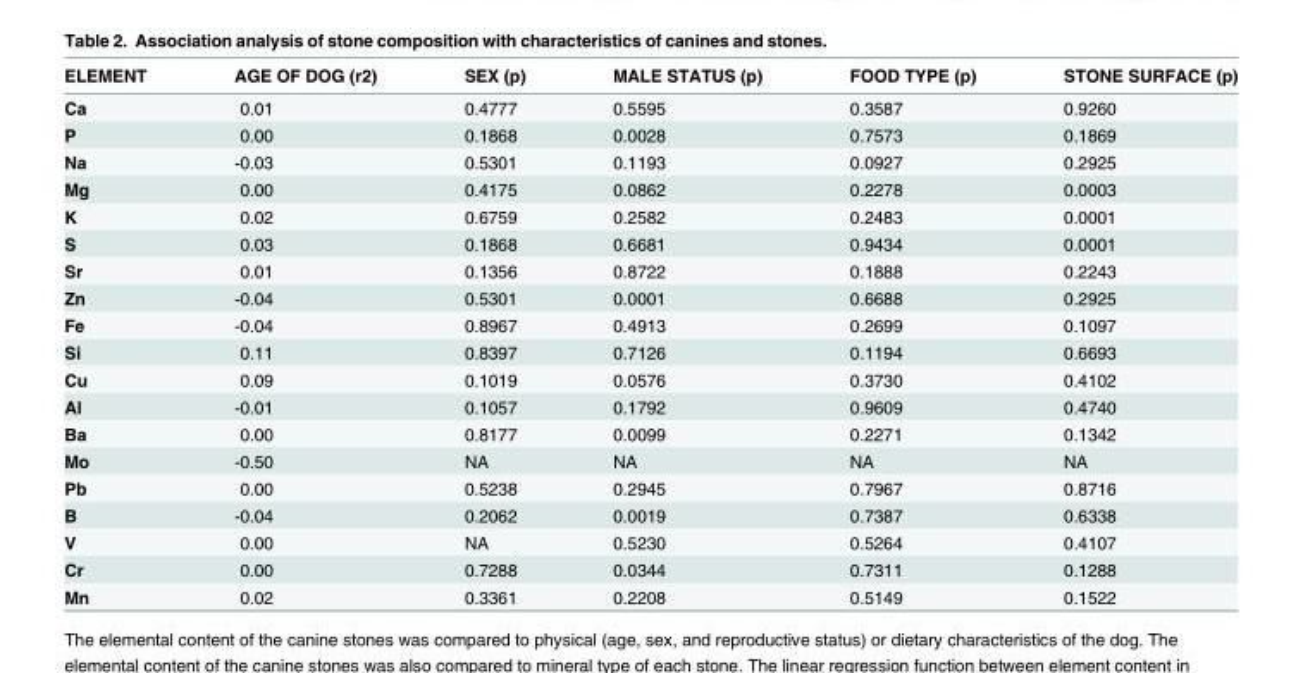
<table><thead><tr><td>ELEMENT</td><td>AGE OF DOG (r2)</td><td>SEX (p)</td><td>MALE STATUS (p)</td><td>FOOD TYPE (p)</td><td>STONE SURFACE (p)</td></tr></thead><tbody><tr><td>Ca</td><td>0.01</td><td>0.4777</td><td>0.5595</td><td>0.3587</td><td>0.9260</td></tr><tr><td>P</td><td>0.00</td><td>0.1868</td><td>0.0028</td><td>0.7573</td><td>0.1869</td></tr><tr><td>Na</td><td>-0.03</td><td>0.5301</td><td>0.1193</td><td>0.0927</td><td>0.2925</td></tr><tr><td>Mg</td><td>0.00</td><td>0.4175</td><td>0.0862</td><td>0.2278</td><td>0.0003</td></tr><tr><td>K</td><td>0.02</td><td>0.6759</td><td>0.2582</td><td>0.2483</td><td>0.0001</td></tr><tr><td>S</td><td>0.03</td><td>0.1868</td><td>0.6681</td><td>0.9434</td><td>0.0001</td></tr><tr><td>Sr</td><td>0.01</td><td>0.1356</td><td>0.8722</td><td>0.1888</td><td>0.2243</td></tr><tr><td>Zn</td><td>-0.04</td><td>0.5301</td><td>0.0001</td><td>0.6688</td><td>0.2925</td></tr><tr><td>Fe</td><td>-0.04</td><td>0.8967</td><td>0.4913</td><td>0.2699</td><td>0.1097</td></tr><tr><td>Si</td><td>0.11</td><td>0.8397</td><td>0.7126</td><td>0.1194</td><td>0.6693</td></tr><tr><td>Cu</td><td>0.09</td><td>0.1019</td><td>0.0576</td><td>0.3730</td><td>0.4102</td></tr><tr><td>Al</td><td>-0.01</td><td>0.1057</td><td>0.1792</td><td>0.9609</td><td>0.4740</td></tr><tr><td>Ba</td><td>0.00</td><td>0.8177</td><td>0.0099</td><td>0.2271</td><td>0.1342</td></tr><tr><td>Mo</td><td>-0.50</td><td>NA</td><td>NA</td><td>NA</td><td>NA</td></tr><tr><td>Pb</td><td>0.00</td><td>0.5238</td><td>0.2945</td><td>0.7967</td><td>0.8716</td></tr><tr><td>B</td><td>-0.04</td><td>0.2062</td><td>0.0019</td><td>0.7387</td><td>0.6338</td></tr><tr><td>V</td><td>0.00</td><td>NA</td><td>0.5230</td><td>0.5264</td><td>0.4107</td></tr><tr><td>Cr</td><td>0.00</td><td>0.7288</td><td>0.0344</td><td>0.7311</td><td>0.1288</td></tr><tr><td>Mn</td><td>0.02</td><td>0.3361</td><td>0.2208</td><td>0.5149</td><td>0.1522</td></tr></tbody></table>